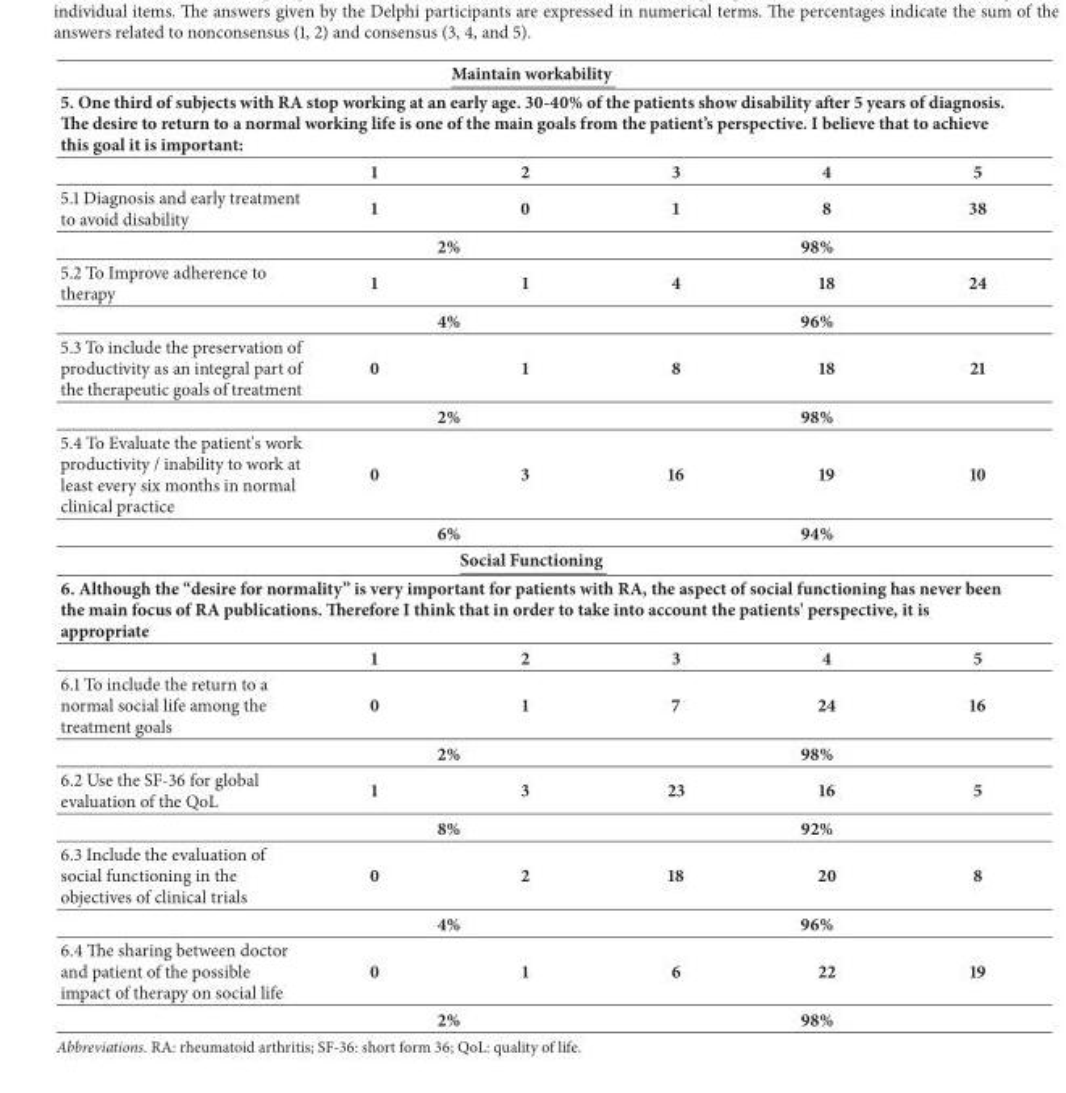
<table><thead><tr><td rowspan="2" colspan="6">Maintain workability 5. One third of subjects with RA stop working at an early age. 30-40% of the patients show disability afer 5 years of diagnosis. Te desire to return to a normal working life is one of the main goals from the patient’s perspective. I believe that to achieve this goal it is important:</td></tr><tr></tr><tr><td></td><td>1</td><td>2</td><td>3</td><td>4</td><td>5</td></tr></thead><tbody><tr><td rowspan="2">5.1 Diagnosis and early treatment to avoid disability</td><td>1</td><td>0</td><td>1</td><td>8</td><td>38</td></tr><tr><td colspan="2">2%</td><td colspan="3">98%</td></tr><tr><td rowspan="2">5.2 To Improve adherence to therapy</td><td>1</td><td>1</td><td>4</td><td>18</td><td>24</td></tr><tr><td colspan="2">4%</td><td colspan="3">96%</td></tr><tr><td rowspan="2">5.3 To include the preservation of productivity as an integral part of the therapeutic goals of treatment</td><td>0</td><td>1</td><td>8</td><td>18</td><td>21</td></tr><tr><td colspan="2">2%</td><td colspan="3">98%</td></tr><tr><td rowspan="2">5.4 To Evaluate the patient&#x27;s work productivity / inability to work at least every six months in normal clinical practice</td><td>0</td><td>3</td><td>16</td><td>19</td><td>10</td></tr><tr><td colspan="2">6%</td><td colspan="3">94%</td></tr><tr><td colspan="6">Social Functioning</td></tr><tr><td colspan="6">6. Although the “desire for normality” is very important for patients with RA, the aspect of social functioning has never been the main focus of RA publications. Terefore I think that in order to take into account the patients&#x27; perspective, it is appropriate</td></tr><tr><td></td><td>1</td><td>2</td><td>3</td><td>4</td><td>5</td></tr><tr><td rowspan="2">6.1 To include the return to a normal social life among the treatment goals</td><td>0</td><td>1</td><td>7</td><td>24</td><td>16</td></tr><tr><td colspan="2">2%</td><td colspan="3">98%</td></tr><tr><td rowspan="2">6.2 Use the SF-36 for global evaluation of the QoL</td><td>1</td><td>3</td><td>23</td><td>16</td><td>5</td></tr><tr><td colspan="2">8%</td><td colspan="3">92%</td></tr><tr><td rowspan="2">6.3 Include the evaluation of social functioning in the objectives of clinical trials</td><td>0</td><td>2</td><td>18</td><td>20</td><td>8</td></tr><tr><td colspan="2">4%</td><td colspan="3">96%</td></tr><tr><td rowspan="2">6.4 The sharing between doctor and patient of the possible impact of therapy on social life</td><td>0</td><td>1</td><td>6</td><td>22</td><td>19</td></tr><tr><td colspan="2">2%</td><td colspan="3">98%</td></tr></tbody></table>